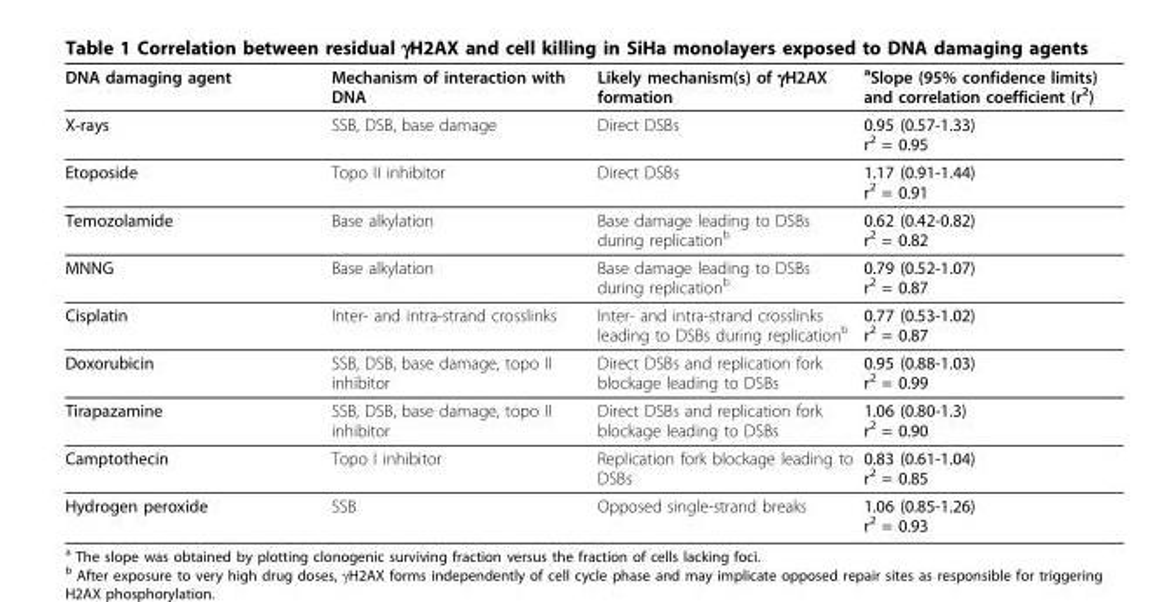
<table><thead><tr><td>DNA damaging agent</td><td>Mechanism of interaction with DNA</td><td>Likely mechanism(s) of γH2AX formation</td><td><sup>a</sup>Slope (95% confidence limits) and correlation coefficient (r<sup>2</sup>)</td></tr></thead><tbody><tr><td>X-rays</td><td>SSB, DSB, base damage</td><td>Direct DSBs</td><td>0.95 (0.57-1.33) r<sup>2</sup> = 0.95</td></tr><tr><td>Etoposide</td><td>Topo II inhibitor</td><td>Direct DSBs</td><td>1.17 (0.91-1.44) r<sup>2</sup> = 0.91</td></tr><tr><td>Temozolamide</td><td>Base alkylation</td><td>Base damage leading to DSBs during replication<sup>b</sup></td><td>0.62 (0.42-0.82) r<sup>2</sup> = 0.82</td></tr><tr><td>MNNG</td><td>Base alkylation</td><td>Base damage leading to DSBs during replication<sup>b</sup></td><td>0.79 (0.52-1.07) r<sup>2</sup> = 0.87</td></tr><tr><td>Cisplatin</td><td>Inter- and intra-strand crosslinks</td><td>Inter- and intra-strand crosslinks leading to DSBs during replication<sup>b</sup></td><td>0.77 (0.53-1.02) r<sup>2</sup> = 0.87</td></tr><tr><td>Doxorubicin</td><td>SSB, DSB, base damage, topo II inhibitor</td><td>Direct DSBs and replication fork blockage leading to DSBs</td><td>0.95 (0.88-1.03) r<sup>2</sup> = 0.99</td></tr><tr><td>Tirapazamine</td><td>SSB, DSB, base damage, topo II inhibitor</td><td>Direct DSBs and replication fork blockage leading to DSBs</td><td>1.06 (0.80-1.3) r<sup>2</sup> = 0.90</td></tr><tr><td>Camptothecin</td><td>Topo I inhibitor</td><td>Replication fork blockage leading to DSBs</td><td>0.83 (0.61-1.04) r<sup>2</sup> = 0.85</td></tr><tr><td>Hydrogen peroxide</td><td>SSB</td><td>Opposed single-strand breaks</td><td>1.06 (0.85-1.26) r<sup>2</sup> = 0.93</td></tr></tbody></table>